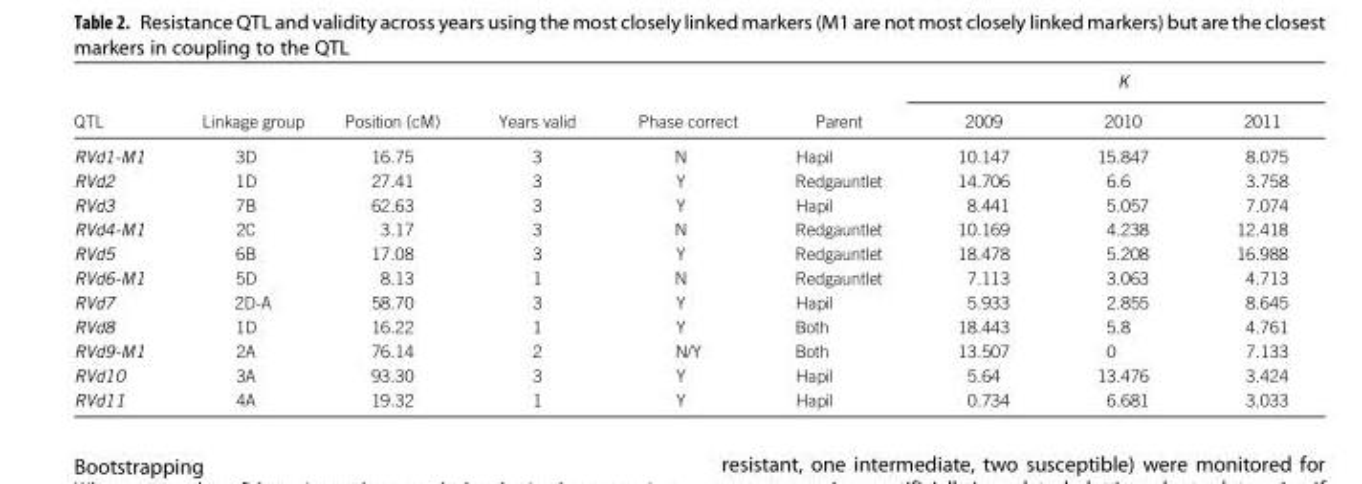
<table><thead><tr><td rowspan="2">QTL</td><td rowspan="2">Linkage group</td><td rowspan="2">Position (cM)</td><td rowspan="2">Years valid</td><td rowspan="2">Phase correct</td><td rowspan="2">Parent</td><td colspan="3">K</td></tr><tr><td>2009</td><td>2010</td><td>2011</td></tr></thead><tbody><tr><td>RVd1-M1</td><td>3D</td><td>16.75</td><td>3</td><td>N</td><td>Hapil</td><td>10.147</td><td>15.847</td><td>8.075</td></tr><tr><td>RVd2</td><td>1D</td><td>27.41</td><td>3</td><td>Y</td><td>Redgauntlet</td><td>14.706</td><td>6.6</td><td>3.758</td></tr><tr><td>RVd3</td><td>7B</td><td>62.63</td><td>3</td><td>Y</td><td>Hapil</td><td>8.441</td><td>5.057</td><td>7.074</td></tr><tr><td>RVd4-M1</td><td>2C</td><td>3.17</td><td>3</td><td>N</td><td>Redgauntlet</td><td>10.169</td><td>4.238</td><td>12.418</td></tr><tr><td>RVd5</td><td>6B</td><td>17.08</td><td>3</td><td>Y</td><td>Redgauntlet</td><td>18.478</td><td>5.208</td><td>16.988</td></tr><tr><td>RVd6-M1</td><td>5D</td><td>8.13</td><td>1</td><td>N</td><td>Redgauntlet</td><td>7.113</td><td>3.063</td><td>4.713</td></tr><tr><td>RVd7</td><td>2D-A</td><td>58.70</td><td>3</td><td>Y</td><td>Hapil</td><td>5.933</td><td>2.855</td><td>8.645</td></tr><tr><td>RVd8</td><td>1D</td><td>16.22</td><td>1</td><td>Y</td><td>Both</td><td>18.443</td><td>5.8</td><td>4.761</td></tr><tr><td>RVd9-M1</td><td>2A</td><td>76.14</td><td>2</td><td>N/Y</td><td>Both</td><td>13.507</td><td>0</td><td>7.133</td></tr><tr><td>RVd10</td><td>3A</td><td>93.30</td><td>3</td><td>Y</td><td>Hapil</td><td>5.64</td><td>13.476</td><td>3.424</td></tr><tr><td>RVd11</td><td>4A</td><td>19.32</td><td>1</td><td>Y</td><td>Hapil</td><td>0.734</td><td>6.681</td><td>3.033</td></tr></tbody></table>